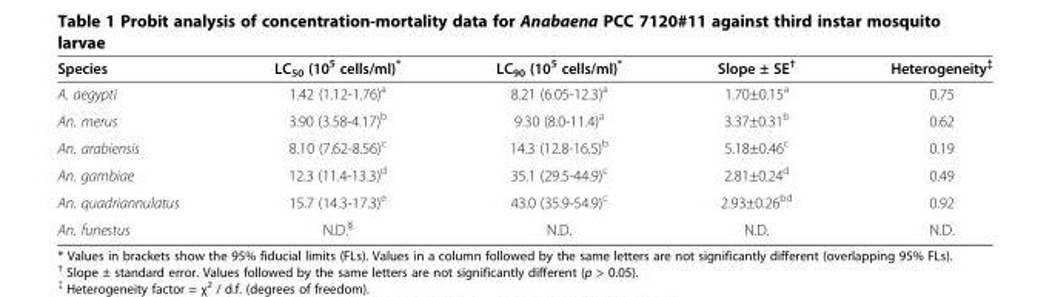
<table><thead><tr><td>Species</td><td>LC<sub>50</sub> (10<sup>5</sup> cells/ml)*</td><td>LC<sub>90</sub> (10<sup>5</sup> cells/ml)*</td><td>Slope ± SE<sup>†</sup></td><td>Heterogeneity{{</td></tr></thead><tbody><tr><td>A. aegypti</td><td>1.42 (1.12-1.76)<sup>a</sup></td><td>8.21 (6.05-12.3)<sup>a</sup></td><td>1.70±0.15<sup>a</sup></td><td>0.75</td></tr><tr><td>An. merus</td><td>3.90 (3.58-4.17)<sup>b</sup></td><td>9.30 (8.0-11.4)<sup>a</sup></td><td>3.37±0.31<sup>b</sup></td><td>0.62</td></tr><tr><td>An. arabiensis</td><td>8.10 (7.62-8.56)<sup>c</sup></td><td>14.3 (12.8-16.5)<sup>b</sup></td><td>5.18±0.46<sup>c</sup></td><td>0.19</td></tr><tr><td>An. gambiae</td><td>12.3 (11.4-13.3)<sup>d</sup></td><td>35.1 (29.5-44.9)<sup>c</sup></td><td>2.81±0.24<sup>d</sup></td><td>0.49</td></tr><tr><td>An. quadriannulatus</td><td>15.7 (14.3-17.3)<sup>e</sup></td><td>43.0 (35.9-54.9)<sup>c</sup></td><td>2.93±0.26<sup>bd</sup></td><td>0.92</td></tr><tr><td>An. funestus</td><td>N.D.<sup>§</sup></td><td>N.D.</td><td>N.D.</td><td>N.D.</td></tr></tbody></table>